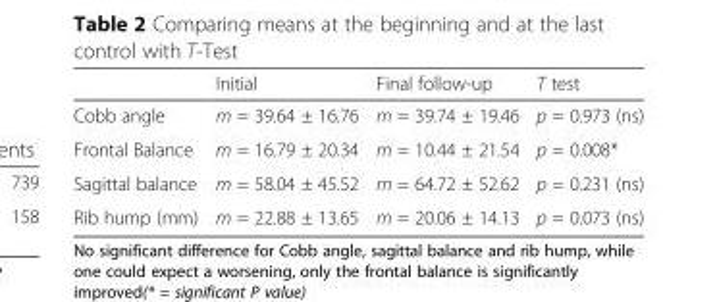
<table><thead><tr><td></td><td>Initial</td><td>Final follow-up</td><td>T test</td></tr></thead><tbody><tr><td>Cobb angle</td><td>m = 39.64 ± 16.76</td><td>m = 39.74 ± 19.46</td><td>p = 0.973 (ns)</td></tr><tr><td>Frontal Balance</td><td>m = 16.79 ± 20.34</td><td>m = 10.44 ± 21.54</td><td>p = 0.008*</td></tr><tr><td>Sagittal balance</td><td>m = 58.04 ± 45.52</td><td>m = 64.72 ± 52.62</td><td>p = 0.231 (ns)</td></tr><tr><td>Rib hump (mm)</td><td>m = 22.88 ± 13.65</td><td>m = 20.06 ± 14.13</td><td>p = 0.073 (ns)</td></tr></tbody></table>